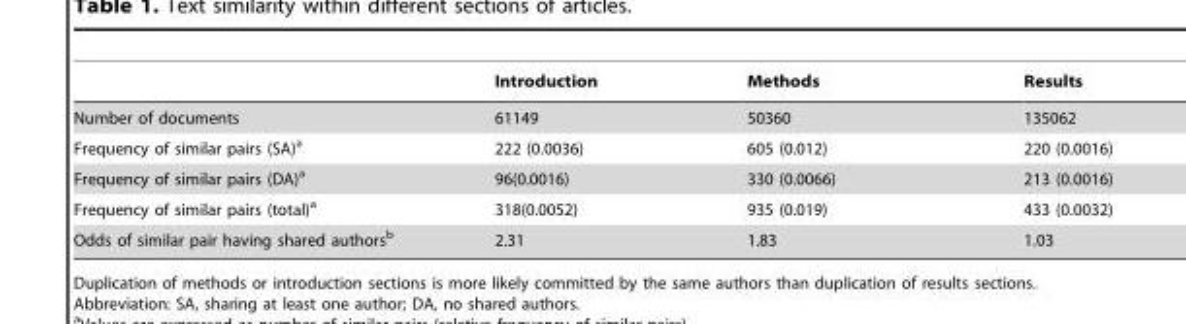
<table><thead><tr><td></td><td>Introduction</td><td>Methods</td><td>Results</td></tr></thead><tbody><tr><td>Number of documents</td><td>61149</td><td>50360</td><td>135062</td></tr><tr><td>Frequency of similar pairs (SA)<sup>a</sup></td><td>222 (0.0036)</td><td>605 (0.012)</td><td>220 (0.0016)</td></tr><tr><td>Frequency of similar pairs (DA)<sup>a</sup></td><td>96(0.0016)</td><td>330 (0.0066)</td><td>213 (0.0016)</td></tr><tr><td>Frequency of similar pairs (total)<sup>a</sup></td><td>318(0.0052)</td><td>935 (0.019)</td><td>433 (0.0032)</td></tr><tr><td>Odds of similar pair having shared authors<sup>b</sup></td><td>2.31</td><td>1.83</td><td>1.03</td></tr></tbody></table>